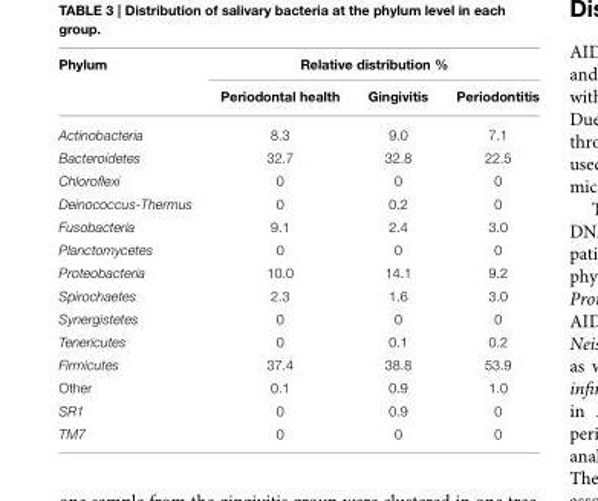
<table><thead><tr><td rowspan="2">Phylum</td><td colspan="3">Relative distribution %</td></tr><tr><td>Periodontal health</td><td>Gingivitis</td><td>Periodontitis</td></tr></thead><tbody><tr><td>Actinobacteria</td><td>8.3</td><td>9.0</td><td>7.1</td></tr><tr><td>Bacteroidetes</td><td>32.7</td><td>32.8</td><td>22.5</td></tr><tr><td>Chloroflexi</td><td>0</td><td>0</td><td>0</td></tr><tr><td>Deinococcus-Thermus</td><td>0</td><td>0.2</td><td>0</td></tr><tr><td>Fusobacteria</td><td>9.1</td><td>2.4</td><td>3.0</td></tr><tr><td>Planctomycetes</td><td>0</td><td>0</td><td>0</td></tr><tr><td>Proteobacteria</td><td>10.0</td><td>14.1</td><td>9.2</td></tr><tr><td>Spirochaetes</td><td>2.3</td><td>1.6</td><td>3.0</td></tr><tr><td>Synergistetes</td><td>0</td><td>0</td><td>0</td></tr><tr><td>Tenericutes</td><td>0</td><td>0.1</td><td>0.2</td></tr><tr><td>Firmicutes</td><td>37.4</td><td>38.8</td><td>53.9</td></tr><tr><td>Other</td><td>0.1</td><td>0.9</td><td>1.0</td></tr><tr><td>SR1</td><td>0</td><td>0.9</td><td>0</td></tr><tr><td>TM7</td><td>0</td><td>0</td><td>0</td></tr></tbody></table>